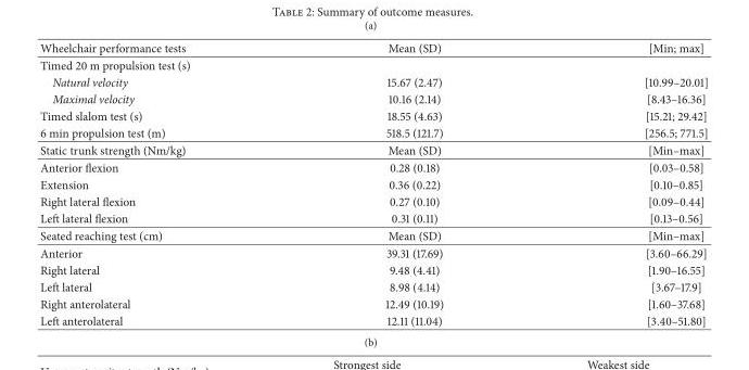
<table><thead><tr><td>Wheelchair performance tests</td><td>Mean (SD)</td><td>[Min; max]</td></tr></thead><tbody><tr><td colspan="3">Timed 20 m propulsion test (s)</td></tr><tr><td>Natural velocity</td><td>15.67 (2.47)</td><td>[10.99–20.01]</td></tr><tr><td>Maximal velocity</td><td>10.16 (2.14)</td><td>[8.43–16.36]</td></tr><tr><td>Timed slalom test (s)</td><td>18.55 (4.63)</td><td>[15.21; 29.42]</td></tr><tr><td>6 min propulsion test (m)</td><td>518.5 (121.7)</td><td>[256.5; 771.5]</td></tr><tr><td>Static trunk strength (Nm/kg)</td><td>Mean (SD)</td><td>[Min–max]</td></tr><tr><td>Anterior flexion</td><td>0.28 (0.18)</td><td>[0.03–0.58]</td></tr><tr><td>Extension</td><td>0.36 (0.22)</td><td>[0.10–0.85]</td></tr><tr><td>Right lateral flexion</td><td>0.27 (0.10)</td><td>[0.09–0.44]</td></tr><tr><td>Left lateral flexion</td><td>0.31 (0.11)</td><td>[0.13–0.56]</td></tr><tr><td>Seated reaching test (cm)</td><td>Mean (SD)</td><td>[Min–max]</td></tr><tr><td>Anterior</td><td>39.31 (17.69)</td><td>[3.60–66.29]</td></tr><tr><td>Right lateral</td><td>9.48 (4.41)</td><td>[1.90–16.55]</td></tr><tr><td>Left lateral</td><td>8.98 (4.14)</td><td>[3.67–17.9]</td></tr><tr><td>Right anterolateral</td><td>12.49 (10.19)</td><td>[1.60–37.68]</td></tr><tr><td>Left anterolateral</td><td>12.11 (11.04)</td><td>[3.40–51.80]</td></tr></tbody></table>